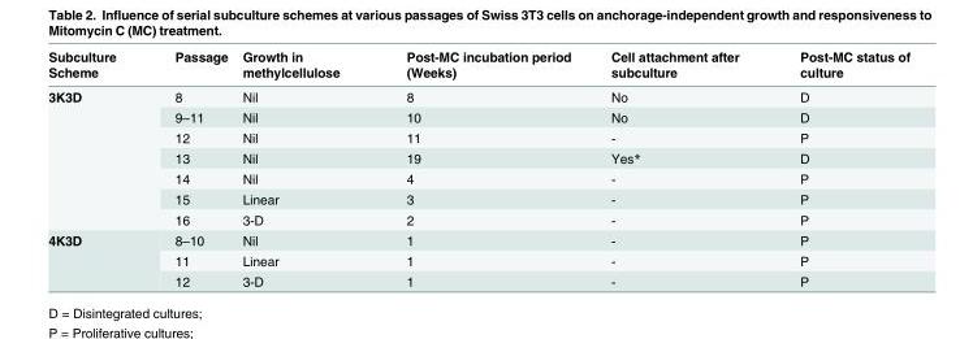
<table><thead><tr><td>Subculture Scheme</td><td>Passage</td><td>Growth in methylcellulose</td><td>Post-MC incubation period (Weeks)</td><td>Cell attachment after subculture</td><td>Post-MC status of culture</td></tr></thead><tbody><tr><td rowspan="7">3K3D</td><td>8</td><td>Nil</td><td>8</td><td>No</td><td>D</td></tr><tr><td>9–11</td><td>Nil</td><td>10</td><td>No</td><td>D</td></tr><tr><td>12</td><td>Nil</td><td>11</td><td>-</td><td>P</td></tr><tr><td>13</td><td>Nil</td><td>19</td><td>Yes*</td><td>D</td></tr><tr><td>14</td><td>Nil</td><td>4</td><td>-</td><td>P</td></tr><tr><td>15</td><td>Linear</td><td>3</td><td>-</td><td>P</td></tr><tr><td>16</td><td>3-D</td><td>2</td><td>-</td><td>P</td></tr><tr><td rowspan="3">4K3D</td><td>8–10</td><td>Nil</td><td>1</td><td>-</td><td>P</td></tr><tr><td>11</td><td>Linear</td><td>1</td><td>-</td><td>P</td></tr><tr><td>12</td><td>3-D</td><td>1</td><td>-</td><td>P</td></tr></tbody></table>